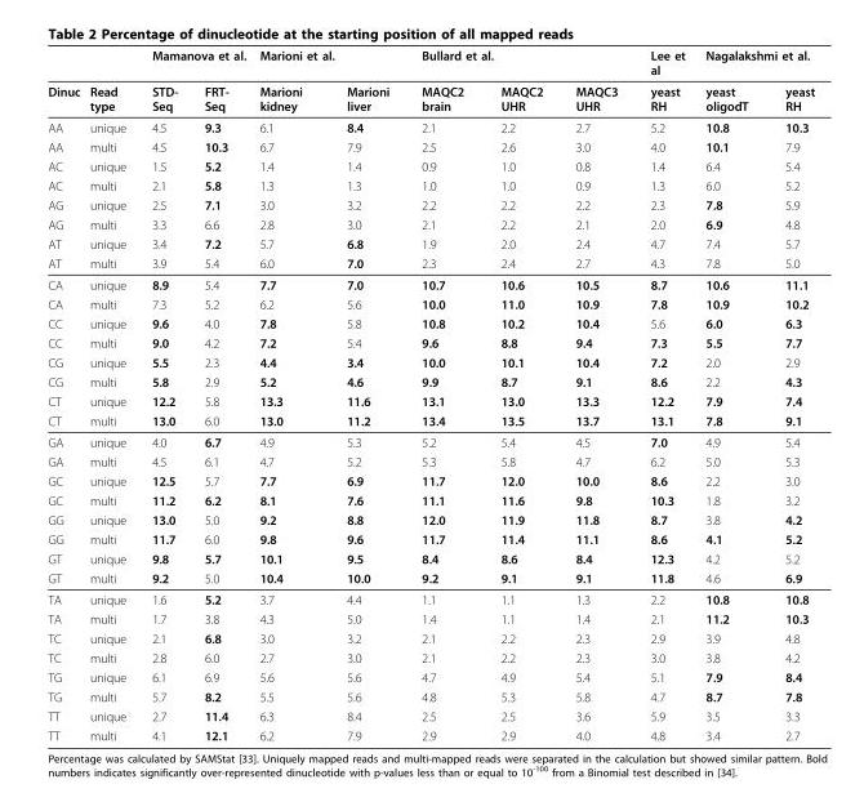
<table><thead><tr><td rowspan="2">Dinuc</td><td rowspan="2">Read type</td><td colspan="2">Mamanova et al.</td><td colspan="2">Marioni et al.</td><td colspan="3">Bullard et al.</td><td rowspan="2">Lee et al yeast RH</td><td colspan="2">Nagalakshmi et al.</td></tr><tr><td>STD- Seq</td><td>FRT- Seq</td><td>Marioni kidney</td><td>Marioni liver</td><td>MAQC2 brain</td><td>MAQC2 UHR</td><td>MAQC3 UHR</td><td>yeast oligodT</td><td>yeast RH</td></tr></thead><tbody><tr><td>AA</td><td>unique</td><td>4.5</td><td>9.3</td><td>6.1</td><td>8.4</td><td>2.1</td><td>2.2</td><td>2.7</td><td>5.2</td><td>10.8</td><td>10.3</td></tr><tr><td>AA</td><td>multi</td><td>4.5</td><td>10.3</td><td>6.7</td><td>7.9</td><td>2.5</td><td>2.6</td><td>3.0</td><td>4.0</td><td>10.1</td><td>7.9</td></tr><tr><td>AC</td><td>unique</td><td>1.5</td><td>5.2</td><td>1.4</td><td>1.4</td><td>0.9</td><td>1.0</td><td>0.8</td><td>1.4</td><td>6.4</td><td>5.4</td></tr><tr><td>AC</td><td>multi</td><td>2.1</td><td>5.8</td><td>1.3</td><td>1.3</td><td>1.0</td><td>1.0</td><td>0.9</td><td>1.3</td><td>6.0</td><td>5.2</td></tr><tr><td>AG</td><td>unique</td><td>2.5</td><td>7.1</td><td>3.0</td><td>3.2</td><td>2.2</td><td>2.2</td><td>2.2</td><td>2.3</td><td>7.8</td><td>5.9</td></tr><tr><td>AG</td><td>multi</td><td>3.3</td><td>6.6</td><td>2.8</td><td>3.0</td><td>2.1</td><td>2.2</td><td>2.1</td><td>2.0</td><td>6.9</td><td>4.8</td></tr><tr><td>AT</td><td>unique</td><td>3.4</td><td>7.2</td><td>5.7</td><td>6.8</td><td>1.9</td><td>2.0</td><td>2.4</td><td>4.7</td><td>7.4</td><td>5.7</td></tr><tr><td>AT</td><td>multi</td><td>3.9</td><td>5.4</td><td>6.0</td><td>7.0</td><td>2.3</td><td>2.4</td><td>2.7</td><td>4.3</td><td>7.8</td><td>5.0</td></tr><tr><td>CA</td><td>unique</td><td>8.9</td><td>5.4</td><td>7.7</td><td>7.0</td><td>10.7</td><td>10.6</td><td>10.5</td><td>8.7</td><td>10.6</td><td>11.1</td></tr><tr><td>CA</td><td>multi</td><td>7.3</td><td>5.2</td><td>6.2</td><td>5.6</td><td>10.0</td><td>11.0</td><td>10.9</td><td>7.8</td><td>10.9</td><td>10.2</td></tr><tr><td>CC</td><td>unique</td><td>9.6</td><td>4.0</td><td>7.8</td><td>5.8</td><td>10.8</td><td>10.2</td><td>10.4</td><td>5.6</td><td>6.0</td><td>6.3</td></tr><tr><td>CC</td><td>multi</td><td>9.0</td><td>4.2</td><td>7.2</td><td>5.4</td><td>9.6</td><td>8.8</td><td>9.4</td><td>7.3</td><td>5.5</td><td>7.7</td></tr><tr><td>CG</td><td>unique</td><td>5.5</td><td>2.3</td><td>4.4</td><td>3.4</td><td>10.0</td><td>10.1</td><td>10.4</td><td>7.2</td><td>2.0</td><td>2.9</td></tr><tr><td>CG</td><td>multi</td><td>5.8</td><td>2.9</td><td>5.2</td><td>4.6</td><td>9.9</td><td>8.7</td><td>9.1</td><td>8.6</td><td>2.2</td><td>4.3</td></tr><tr><td>CT</td><td>unique</td><td>12.2</td><td>5.8</td><td>13.3</td><td>11.6</td><td>13.1</td><td>13.0</td><td>13.3</td><td>12.2</td><td>7.9</td><td>7.4</td></tr><tr><td>CT</td><td>multi</td><td>13.0</td><td>6.0</td><td>13.0</td><td>11.2</td><td>13.4</td><td>13.5</td><td>13.7</td><td>13.1</td><td>7.8</td><td>9.1</td></tr><tr><td>GA</td><td>unique</td><td>4.0</td><td>6.7</td><td>4.9</td><td>5.3</td><td>5.2</td><td>5.4</td><td>4.5</td><td>7.0</td><td>4.9</td><td>5.4</td></tr><tr><td>GA</td><td>multi</td><td>4.5</td><td>6.1</td><td>4.7</td><td>5.2</td><td>5.3</td><td>5.8</td><td>4.7</td><td>6.2</td><td>5.0</td><td>5.3</td></tr><tr><td>GC</td><td>unique</td><td>12.5</td><td>5.7</td><td>7.7</td><td>6.9</td><td>11.7</td><td>12.0</td><td>10.0</td><td>8.6</td><td>2.2</td><td>3.0</td></tr><tr><td>GC</td><td>multi</td><td>11.2</td><td>6.2</td><td>8.1</td><td>7.6</td><td>11.1</td><td>11.6</td><td>9.8</td><td>10.3</td><td>1.8</td><td>3.2</td></tr><tr><td>GG</td><td>unique</td><td>13.0</td><td>5.0</td><td>9.2</td><td>8.8</td><td>12.0</td><td>11.9</td><td>11.8</td><td>8.7</td><td>3.8</td><td>4.2</td></tr><tr><td>GG</td><td>multi</td><td>11.7</td><td>6.0</td><td>9.8</td><td>9.6</td><td>11.7</td><td>11.4</td><td>11.1</td><td>8.6</td><td>4.1</td><td>5.2</td></tr><tr><td>GT</td><td>unique</td><td>9.8</td><td>5.7</td><td>10.1</td><td>9.5</td><td>8.4</td><td>8.6</td><td>8.4</td><td>12.3</td><td>4.2</td><td>5.2</td></tr><tr><td>GT</td><td>multi</td><td>9.2</td><td>5.0</td><td>10.4</td><td>10.0</td><td>9.2</td><td>9.1</td><td>9.1</td><td>11.8</td><td>4.6</td><td>6.9</td></tr><tr><td>TA</td><td>unique</td><td>1.6</td><td>5.2</td><td>3.7</td><td>4.4</td><td>1.1</td><td>1.1</td><td>1.3</td><td>2.2</td><td>10.8</td><td>10.8</td></tr><tr><td>TA</td><td>multi</td><td>1.7</td><td>3.8</td><td>4.3</td><td>5.0</td><td>1.4</td><td>1.1</td><td>1.4</td><td>2.1</td><td>11.2</td><td>10.3</td></tr><tr><td>TC</td><td>unique</td><td>2.1</td><td>6.8</td><td>3.0</td><td>3.2</td><td>2.1</td><td>2.2</td><td>2.3</td><td>2.9</td><td>3.9</td><td>4.8</td></tr><tr><td>TC</td><td>multi</td><td>2.8</td><td>6.0</td><td>2.7</td><td>3.0</td><td>2.1</td><td>2.2</td><td>2.3</td><td>3.0</td><td>3.8</td><td>4.2</td></tr><tr><td>TG</td><td>unique</td><td>6.1</td><td>6.9</td><td>5.6</td><td>5.6</td><td>4.7</td><td>4.9</td><td>5.4</td><td>5.1</td><td>7.9</td><td>8.4</td></tr><tr><td>TG</td><td>multi</td><td>5.7</td><td>8.2</td><td>5.5</td><td>5.6</td><td>4.8</td><td>5.3</td><td>5.8</td><td>4.7</td><td>8.7</td><td>7.8</td></tr><tr><td>TT</td><td>unique</td><td>2.7</td><td>11.4</td><td>6.3</td><td>8.4</td><td>2.5</td><td>2.5</td><td>3.6</td><td>5.9</td><td>3.5</td><td>3.3</td></tr><tr><td>TT</td><td>multi</td><td>4.1</td><td>12.1</td><td>6.2</td><td>7.9</td><td>2.9</td><td>2.9</td><td>4.0</td><td>4.8</td><td>3.4</td><td>2.7</td></tr></tbody></table>